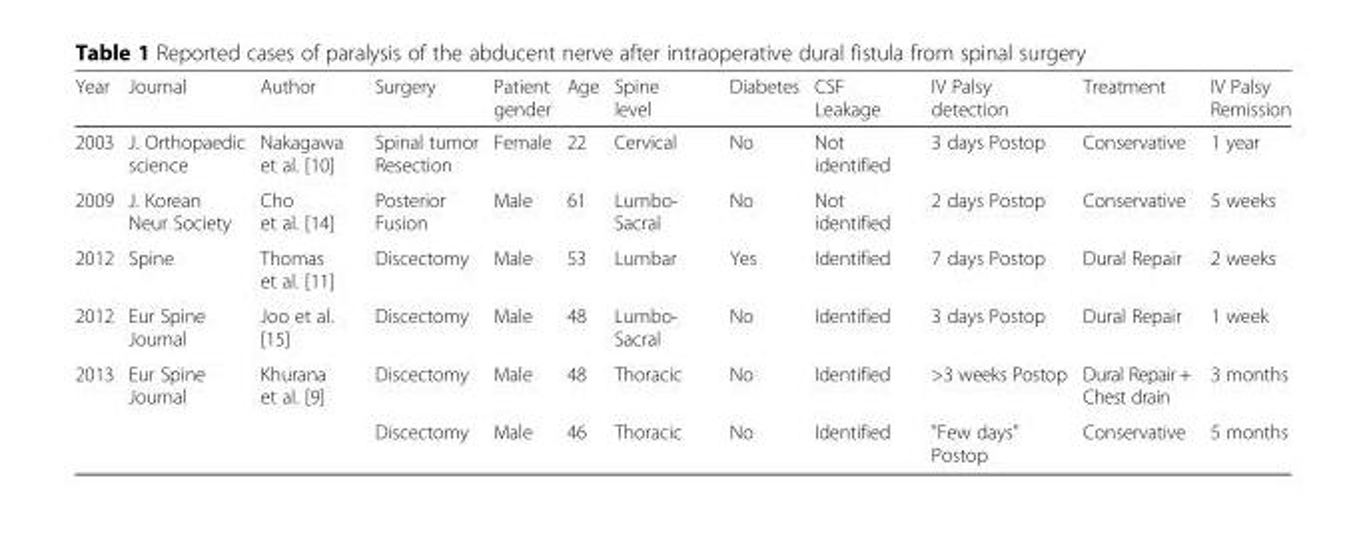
<table><thead><tr><td>Year</td><td>Journal</td><td>Author</td><td>Surgery</td><td>Patient gender</td><td>Age</td><td>Spine level</td><td>Diabetes</td><td>CSF Leakage</td><td>IV Palsy detection</td><td>Treatment</td><td>IV Palsy Remission</td></tr></thead><tbody><tr><td>2003</td><td>J. Orthopaedic science</td><td>Nakagawa et al. [10]</td><td>Spinal tumor Resection</td><td>Female</td><td>22</td><td>Cervical</td><td>No</td><td>Not identified</td><td>3 days Postop</td><td>Conservative</td><td>1 year</td></tr><tr><td>2009</td><td>J. Korean Neur Society</td><td>Cho et al. [14]</td><td>Posterior Fusion</td><td>Male</td><td>61</td><td>Lumbo- Sacral</td><td>No</td><td>Not identified</td><td>2 days Postop</td><td>Conservative</td><td>5 weeks</td></tr><tr><td>2012</td><td>Spine</td><td>Thomas et al. [11]</td><td>Discectomy</td><td>Male</td><td>53</td><td>Lumbar</td><td>Yes</td><td>Identified</td><td>7 days Postop</td><td>Dural Repair</td><td>2 weeks</td></tr><tr><td>2012</td><td>Eur Spine Journal</td><td>Joo et al. [15]</td><td>Discectomy</td><td>Male</td><td>48</td><td>Lumbo- Sacral</td><td>No</td><td>Identified</td><td>3 days Postop</td><td>Dural Repair</td><td>1 week</td></tr><tr><td rowspan="2">2013</td><td>Eur Spine Journal</td><td>Khurana et al. [9]</td><td>Discectomy</td><td>Male</td><td>48</td><td>Thoracic</td><td>No</td><td>Identified</td><td>&gt;3 weeks Postop</td><td>Dural Repair + Chest drain</td><td>3 months</td></tr><tr><td></td><td></td><td>Discectomy</td><td>Male</td><td>46</td><td>Thoracic</td><td>No</td><td>Identified</td><td>&quot;Few days&quot; Postop</td><td>Conservative</td><td>5 months</td></tr></tbody></table>